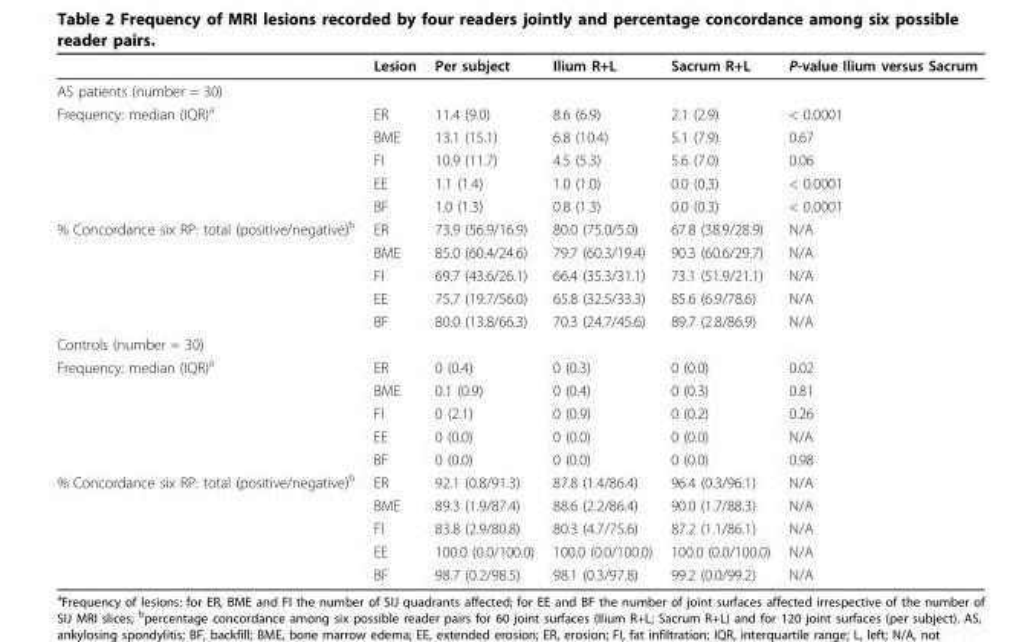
<table><thead><tr><td></td><td>Lesion</td><td>Per subject</td><td>Ilium R+L</td><td>Sacrum R+L</td><td>P-value Ilium versus Sacrum</td></tr></thead><tbody><tr><td colspan="6">AS patients (number = 30)</td></tr><tr><td rowspan="5">Frequency: median (IQR)<sup>a</sup></td><td>ER</td><td>11.4 (9.0)</td><td>8.6 (6.9)</td><td>2.1 (2.9)</td><td>&lt; 0.0001</td></tr><tr><td>BME</td><td>13.1 (15.1)</td><td>6.8 (10.4)</td><td>5.1 (7.9)</td><td>0.67</td></tr><tr><td>FI</td><td>10.9 (11.7)</td><td>4.5 (5.3)</td><td>5.6 (7.0)</td><td>0.06</td></tr><tr><td>EE</td><td>1.1 (1.4)</td><td>1.0 (1.0)</td><td>0.0 (0.3)</td><td>&lt; 0.0001</td></tr><tr><td>BF</td><td>1.0 (1.3)</td><td>0.8 (1.3)</td><td>0.0 (0.3)</td><td>&lt; 0.0001</td></tr><tr><td rowspan="5">% Concordance six RP: total (positive/negative)<sup>b</sup></td><td>ER</td><td>73.9 (56.9/16.9)</td><td>80.0 (75.0/5.0)</td><td>67.8 (38.9/28.9)</td><td>N/A</td></tr><tr><td>BME</td><td>85.0 (60.4/24.6)</td><td>79.7 (60.3/19.4)</td><td>90.3 (60.6/29.7)</td><td>N/A</td></tr><tr><td>FI</td><td>69.7 (43.6/26.1)</td><td>66.4 (35.3/31.1)</td><td>73.1 (51.9/21.1)</td><td>N/A</td></tr><tr><td>EE</td><td>75.7 (19.7/56.0)</td><td>65.8 (32.5/33.3)</td><td>85.6 (6.9/78.6)</td><td>N/A</td></tr><tr><td>BF</td><td>80.0 (13.8/66.3)</td><td>70.3 (24.7/45.6)</td><td>89.7 (2.8/86.9)</td><td>N/A</td></tr><tr><td colspan="6">Controls (number = 30)</td></tr><tr><td rowspan="5">Frequency: median (IQR)<sup>a</sup></td><td>ER</td><td>0 (0.4)</td><td>0 (0.3)</td><td>0 (0.0)</td><td>0.02</td></tr><tr><td>BME</td><td>0.1 (0.9)</td><td>0 (0.4)</td><td>0 (0.3)</td><td>0.81</td></tr><tr><td>FI</td><td>0 (2.1)</td><td>0 (0.9)</td><td>0 (0.2)</td><td>0.26</td></tr><tr><td>EE</td><td>0 (0.0)</td><td>0 (0.0)</td><td>0 (0.0)</td><td>N/A</td></tr><tr><td>BF</td><td>0 (0.0)</td><td>0 (0.0)</td><td>0 (0.0)</td><td>0.98</td></tr><tr><td rowspan="5">% Concordance six RP: total (positive/negative)<sup>b</sup></td><td>ER</td><td>92.1 (0.8/91.3)</td><td>87.8 (1.4/86.4)</td><td>96.4 (0.3/96.1)</td><td>N/A</td></tr><tr><td>BME</td><td>89.3 (1.9/87.4)</td><td>88.6 (2.2/86.4)</td><td>90.0 (1.7/88.3)</td><td>N/A</td></tr><tr><td>FI</td><td>83.8 (2.9/80.8)</td><td>80.3 (4.7/75.6)</td><td>87.2 (1.1/86.1)</td><td>N/A</td></tr><tr><td>EE</td><td>100.0 (0.0/100.0)</td><td>100.0 (0.0/100.0)</td><td>100.0 (0.0/100.0)</td><td>N/A</td></tr><tr><td>BF</td><td>98.7 (0.2/98.5)</td><td>98.1 (0.3/97.8)</td><td>99.2 (0.0/99.2)</td><td>N/A</td></tr></tbody></table>